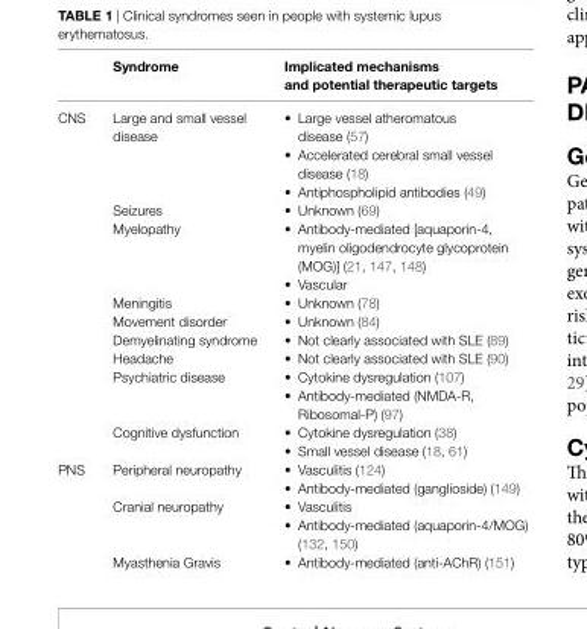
<table><thead><tr><td></td><td>Syndrome</td><td>implicated mechanisms and potential therapeutic targets</td></tr></thead><tbody><tr><td rowspan="9">CNS</td><td>Large and small vessel disease</td><td>• Large vessel atheromatous disease (57) • Accelerated cerebral small vessel disease (18) • Antiphospholipid antibodies (49)</td></tr><tr><td>Seizures</td><td>• Unknown (69)</td></tr><tr><td>Myelopathy</td><td>• Antibody-mediated [aquaporin-4, myelin oligodendrocyte glycoprotein (MOG)] (21, 147, 148) • Vascular</td></tr><tr><td>Meningitis</td><td>• Unknown (78)</td></tr><tr><td>Movement disorder</td><td>• Unknown (84)</td></tr><tr><td>Demyelinating syndrome</td><td>• Not clearly associated with SLE (89)</td></tr><tr><td>Headache</td><td>• Not clearly associated with SLE (90)</td></tr><tr><td>Psychiatric disease</td><td>• Cytokine dysregulation (107) • Antibody-mediated (NMDA-R, Ribosomal-P) (97)</td></tr><tr><td>Cognitive dysfunction</td><td>• Cytokine dysregulation (38) • Small vessel disease (18, 61)</td></tr><tr><td rowspan="3">PNS</td><td>Peripheral neuropathy</td><td>• Vasculitis (124) • Antibody-mediated (ganglioside) (149)</td></tr><tr><td>Cranial neuropathy</td><td>• Vasculitis • Antibody-mediated (aquaporin-4/MOG) (132, 150)</td></tr><tr><td>Myasthenia Gravis</td><td>• Antibody-mediated (anti-AChR) (151)</td></tr></tbody></table>